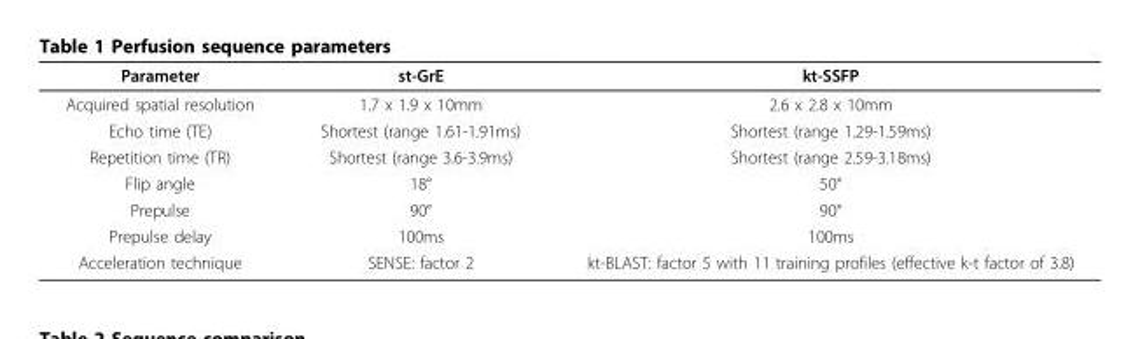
<table><thead><tr><td>Parameter</td><td>st-GrE</td><td>kt-SSFP</td></tr></thead><tbody><tr><td>Acquired spatial resolution</td><td>1.7 x 1.9 x 10mm</td><td>2.6 x 2.8 x 10mm</td></tr><tr><td>Echo time (TE)</td><td>Shortest (range 1.61-1.91ms)</td><td>Shortest (range 1.29-1.59ms)</td></tr><tr><td>Repetition time (TR)</td><td>Shortest (range 3.6-3.9ms)</td><td>Shortest (range 2.59-3.18ms)</td></tr><tr><td>Flip angle</td><td>18°</td><td>50°</td></tr><tr><td>Prepulse</td><td>90°</td><td>90°</td></tr><tr><td>Prepulse delay</td><td>100ms</td><td>100ms</td></tr><tr><td>Acceleration technique</td><td>SENSE: factor 2</td><td>kt-BLAST: factor 5 with 11 training profiles (effective k-t factor of 3.8)</td></tr></tbody></table>